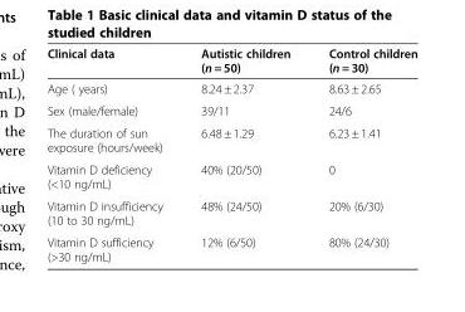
<table><thead><tr><td>Clinical data</td><td>Autistic children (n = 50)</td><td>Control children (n = 30)</td></tr></thead><tbody><tr><td>Age ( years)</td><td>8.24 ± 2.37</td><td>8.63 ± 2.65</td></tr><tr><td>Sex (male/female)</td><td>39/11</td><td>24/6</td></tr><tr><td>The duration of sun exposure (hours/week)</td><td>6.48 ± 1.29</td><td>6.23 ± 1.41</td></tr><tr><td>Vitamin D deficiency (&lt;10 ng/mL)</td><td>40% (20/50)</td><td>0</td></tr><tr><td>Vitamin D insufficiency (10 to 30 ng/mL)</td><td>48% (24/50)</td><td>20% (6/30)</td></tr><tr><td>Vitamin D sufficiency (&gt;30 ng/mL)</td><td>12% (6/50)</td><td>80% (24/30)</td></tr></tbody></table>